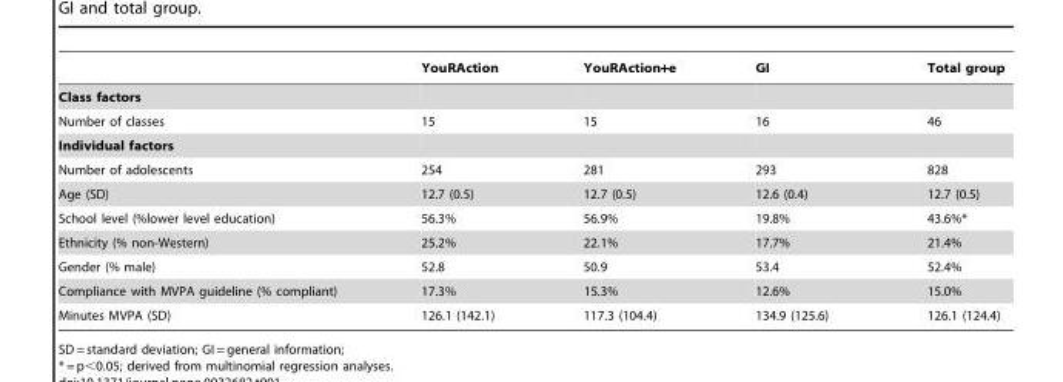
<table><thead><tr><td></td><td>YouRAction</td><td>YouRAction+e</td><td>GI</td><td>Total group</td></tr></thead><tbody><tr><td colspan="5">Class factors</td></tr><tr><td>Number of classes</td><td>15</td><td>15</td><td>16</td><td>46</td></tr><tr><td colspan="5">Individual factors</td></tr><tr><td>Number of adolescents</td><td>254</td><td>281</td><td>293</td><td>828</td></tr><tr><td>Age (SD)</td><td>12.7 (0.5)</td><td>12.7 (0.5)</td><td>12.6 (0.4)</td><td>12.7 (0.5)</td></tr><tr><td>School level (%lower level education)</td><td>56.3%</td><td>56.9%</td><td>19.8%</td><td>43.6%*</td></tr><tr><td>Ethnicity (% non-Western)</td><td>25.2%</td><td>22.1%</td><td>17.7%</td><td>21.4%</td></tr><tr><td>Gender (% male)</td><td>52.8</td><td>50.9</td><td>53.4</td><td>52.4%</td></tr><tr><td>Compliance with MVPA guideline (% compliant)</td><td>17.3%</td><td>15.3%</td><td>12.6%</td><td>15.0%</td></tr><tr><td>Minutes MVPA (SD)</td><td>126.1 (142.1)</td><td>117.3 (104.4)</td><td>134.9 (125.6)</td><td>126.1 (124.4)</td></tr></tbody></table>